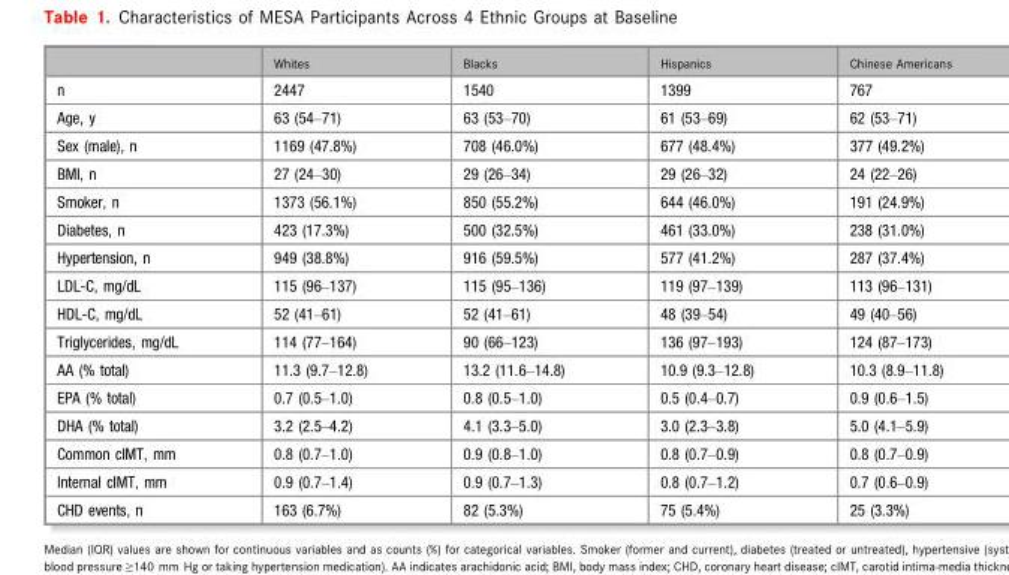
<table><thead><tr><td></td><td>Whites</td><td>Blacks</td><td>Hispanics</td><td>Chinese Americans</td></tr></thead><tbody><tr><td>n</td><td>2447</td><td>1540</td><td>1399</td><td>767</td></tr><tr><td>Age, y</td><td>63 (54–71)</td><td>63 (53–70)</td><td>61 (53–69)</td><td>62 (53–71)</td></tr><tr><td>Sex (male), n</td><td>1169 (47.8%)</td><td>708 (46.0%)</td><td>677 (48.4%)</td><td>377 (49.2%)</td></tr><tr><td>BMI, n</td><td>27 (24–30)</td><td>29 (26–34)</td><td>29 (26–32)</td><td>24 (22–26)</td></tr><tr><td>Smoker, n</td><td>1373 (56.1%)</td><td>850 (55.2%)</td><td>644 (46.0%)</td><td>191 (24.9%)</td></tr><tr><td>Diabetes, n</td><td>423 (17.3%)</td><td>500 (32.5%)</td><td>461 (33.0%)</td><td>238 (31.0%)</td></tr><tr><td>Hypertension, n</td><td>949 (38.8%)</td><td>916 (59.5%)</td><td>577 (41.2%)</td><td>287 (37.4%)</td></tr><tr><td>LDL-C, mg/dL</td><td>115 (96–137)</td><td>115 (95–136)</td><td>119 (97–139)</td><td>113 (96–131)</td></tr><tr><td>HDL-C, mg/dL</td><td>52 (41–61)</td><td>52 (41–61)</td><td>48 (39–54)</td><td>49 (40–56)</td></tr><tr><td>Triglycerides, mg/dL</td><td>114 (77–164)</td><td>90 (66–123)</td><td>136 (97–193)</td><td>124 (87–173)</td></tr><tr><td>AA (% total)</td><td>11.3 (9.7–12.8)</td><td>13.2 (11.6–14.8)</td><td>10.9 (9.3–12.8)</td><td>10.3 (8.9–11.8)</td></tr><tr><td>EPA (% total)</td><td>0.7 (0.5–1.0)</td><td>0.8 (0.5–1.0)</td><td>0.5 (0.4–0.7)</td><td>0.9 (0.6–1.5)</td></tr><tr><td>DHA (% total)</td><td>3.2 (2.5–4.2)</td><td>4.1 (3.3–5.0)</td><td>3.0 (2.3–3.8)</td><td>5.0 (4.1–5.9)</td></tr><tr><td>Common cIMT, mm</td><td>0.8 (0.7–1.0)</td><td>0.9 (0.8–1.0)</td><td>0.8 (0.7–0.9)</td><td>0.8 (0.7–0.9)</td></tr><tr><td>Internal cIMT, mm</td><td>0.9 (0.7–1.4)</td><td>0.9 (0.7–1.3)</td><td>0.8 (0.7–1.2)</td><td>0.7 (0.6–0.9)</td></tr><tr><td>CHD events, n</td><td>163 (6.7%)</td><td>82 (5.3%)</td><td>75 (5.4%)</td><td>25 (3.3%)</td></tr></tbody></table>